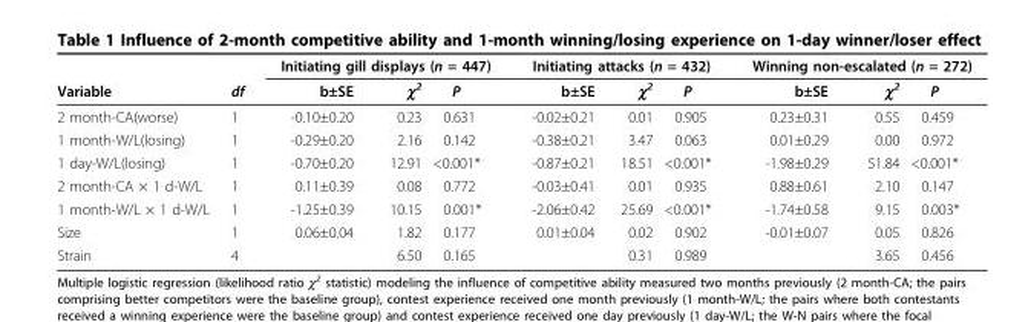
<table><thead><tr><td rowspan="2">Variable</td><td rowspan="2">df</td><td colspan="3">Initiating gill displays (n = 447)</td><td colspan="3">Initiating attacks (n = 432)</td><td colspan="3">Winning non-escalated (n = 272)</td></tr><tr><td>b±SE</td><td>χ<sup>2</sup></td><td>P</td><td>b±SE</td><td>χ<sup>2</sup></td><td>P</td><td>b±SE</td><td>χ<sup>2</sup></td><td>P</td></tr></thead><tbody><tr><td>2 month-CA(worse)</td><td>1</td><td>-0.10±0.20</td><td>0.23</td><td>0.631</td><td>-0.02±0.21</td><td>0.01</td><td>0.905</td><td>0.23±0.31</td><td>0.55</td><td>0.459</td></tr><tr><td>1 month-W/L(losing)</td><td>1</td><td>-0.29±0.20</td><td>2.16</td><td>0.142</td><td>-0.38±0.21</td><td>3.47</td><td>0.063</td><td>0.01±0.29</td><td>0.00</td><td>0.972</td></tr><tr><td>1 day-W/L(losing)</td><td>1</td><td>-0.70±0.20</td><td>12.91</td><td>&lt;0.001*</td><td>-0.87±0.21</td><td>18.51</td><td>&lt;0.001*</td><td>-1.98±0.29</td><td>51.84</td><td>&lt;0.001*</td></tr><tr><td>2 month-CA × 1 d-W/L</td><td>1</td><td>0.11±0.39</td><td>0.08</td><td>0.772</td><td>-0.03±0.41</td><td>0.01</td><td>0.935</td><td>0.88±0.61</td><td>2.10</td><td>0.147</td></tr><tr><td>1 month-W/L × 1 d-W/L</td><td>1</td><td>-1.25±0.39</td><td>10.15</td><td>0.001*</td><td>-2.06±0.42</td><td>25.69</td><td>&lt;0.001*</td><td>-1.74±0.58</td><td>9.15</td><td>0.003*</td></tr><tr><td>Size</td><td>1</td><td>0.06±0.04</td><td>1.82</td><td>0.177</td><td>0.01±0.04</td><td>0.02</td><td>0.902</td><td>-0.01±0.07</td><td>0.05</td><td>0.826</td></tr><tr><td>Strain</td><td>4</td><td></td><td>6.50</td><td>0.165</td><td></td><td>0.31</td><td>0.989</td><td></td><td>3.65</td><td>0.456</td></tr></tbody></table>